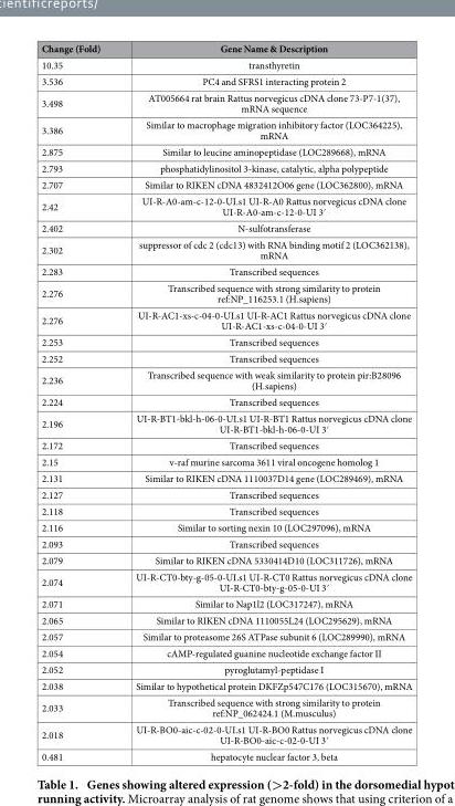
<table><thead><tr><td>Change (Fold)</td><td>Gene Name &amp; Description</td></tr></thead><tbody><tr><td>10.35</td><td>transthyretin</td></tr><tr><td>3.536</td><td>PC4 and SFRS1 interacting protein 2</td></tr><tr><td>3.498</td><td>AT005664 rat brain Rattus norvegicus cDNA clone 73-P7-1(37), mRNA sequence</td></tr><tr><td>3.386</td><td>Similar to macrophage migration inhibitory factor (LOC364225), mRNA</td></tr><tr><td>2.875</td><td>Similar to leucine aminopeptidase (LOC289668), mRNA</td></tr><tr><td>2.793</td><td>phosphatidylinositol 3-kinase, catalytic, alpha polypeptide</td></tr><tr><td>2.707</td><td>Similar to RIKEN cDNA 4832412O06 gene (LOC362800), mRNA</td></tr><tr><td>2.42</td><td>UI-R-A0-am-c-12-0-UI.s1 UI-R-A0 Rattus norvegicus cDNA clone UI-R-A0-am-c-12-0-UI 3′</td></tr><tr><td>2.402</td><td>N-sulfotransferase</td></tr><tr><td>2.302</td><td>suppressor of cdc 2 (cdc13) with RNA binding motif 2 (LOC362138), mRNA</td></tr><tr><td>2.283</td><td>Transcribed sequences</td></tr><tr><td>2.276</td><td>Transcribed sequence with strong similarity to protein ref:NP_116253.1 (H.sapiens)</td></tr><tr><td>2.276</td><td>UI-R-AC1-xs-c-04-0-UI.s1 UI-R-AC1 Rattus norvegicus cDNA clone UI-R-AC1-xs-c-04-0-UI 3′</td></tr><tr><td>2.253</td><td>Transcribed sequences</td></tr><tr><td>2.252</td><td>Transcribed sequences</td></tr><tr><td>2.236</td><td>Transcribed sequence with weak similarity to protein pir:B28096 (H.sapiens)</td></tr><tr><td>2.224</td><td>Transcribed sequences</td></tr><tr><td>2.196</td><td>UI-R-BT1-bkl-h-06-0-UI.s1 UI-R-BT1 Rattus norvegicus cDNA clone UI-R-BT1-bkl-h-06-0-UI 3′</td></tr><tr><td>2.172</td><td>Transcribed sequences</td></tr><tr><td>2.15</td><td>v-raf murine sarcoma 3611 viral oncogene homolog 1</td></tr><tr><td>2.131</td><td>Similar to RIKEN cDNA 1110037D14 gene (LOC289469), mRNA</td></tr><tr><td>2.127</td><td>Transcribed sequences</td></tr><tr><td>2.118</td><td>Transcribed sequences</td></tr><tr><td>2.116</td><td>Similar to sorting nexin 10 (LOC297096), mRNA</td></tr><tr><td>2.093</td><td>Transcribed sequences</td></tr><tr><td>2.079</td><td>Similar to RIKEN cDNA 5330414D10 (LOC311726), mRNA</td></tr><tr><td>2.074</td><td>UI-R-CT0-bty-g-05-0-UI.s1 UI-R-CT0 Rattus norvegicus cDNA clone UI-R-CT0-bty-g-05-0-UI 3′</td></tr><tr><td>2.071</td><td>Similar to Nap1l2 (LOC317247), mRNA</td></tr><tr><td>2.065</td><td>Similar to RIKEN cDNA 1110055L24 (LOC295629), mRNA</td></tr><tr><td>2.057</td><td>Similar to proteasome 26S ATPase subunit 6 (LOC289990), mRNA</td></tr><tr><td>2.054</td><td>cAMP-regulated guanine nucleotide exchange factor II</td></tr><tr><td>2.052</td><td>pyroglutamyl-peptidase I</td></tr><tr><td>2.038</td><td>Similar to hypothetical protein DKFZp547C176 (LOC315670), mRNA</td></tr><tr><td>2.033</td><td>Transcribed sequence with strong similarity to protein ref:NP_062424.1 (M.musculus)</td></tr><tr><td>2.018</td><td>UI-R-BO0-aic-c-02-0-UI.s1 UI-R-BO0 Rattus norvegicus cDNA clone UI-R-BO0-aic-c-02-0-UI 3′</td></tr><tr><td>0.481</td><td>hepatocyte nuclear factor 3, beta</td></tr></tbody></table>